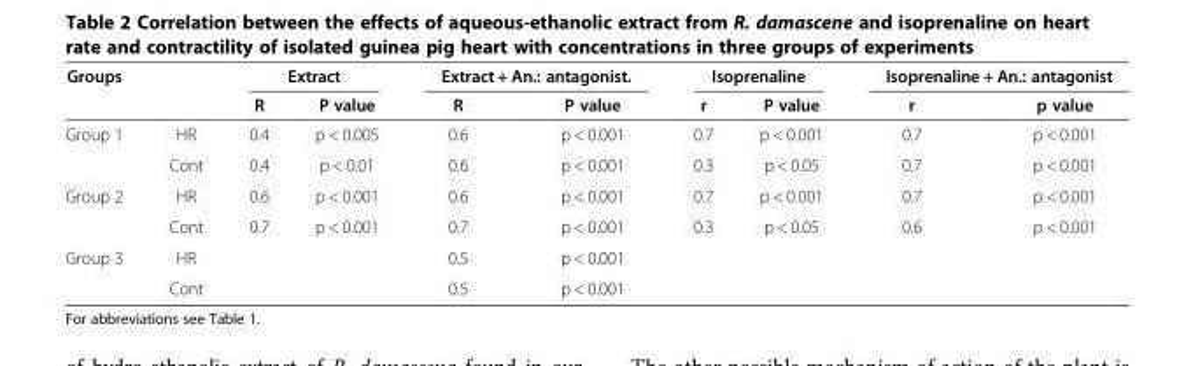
<table><thead><tr><td rowspan="2">Groups</td><td rowspan="2"></td><td colspan="2">Extract</td><td colspan="2">Extract + An.: antagonist.</td><td colspan="2">Isoprenaline</td><td colspan="2">Isoprenaline + An.: antagonist</td></tr><tr><td>R</td><td>P value</td><td>R</td><td>P value</td><td>r</td><td>P value</td><td>r</td><td>p value</td></tr></thead><tbody><tr><td rowspan="2">Group 1</td><td>HR</td><td>0.4</td><td>p &lt; 0.005</td><td>0.6</td><td>p &lt; 0.001</td><td>0.7</td><td>p &lt; 0.001</td><td>0.7</td><td>p &lt; 0.001</td></tr><tr><td>Cont</td><td>0.4</td><td>p &lt; 0.01</td><td>0.6</td><td>p &lt; 0.001</td><td>0.3</td><td>p &lt; 0.05</td><td>0.7</td><td>p &lt; 0.001</td></tr><tr><td rowspan="2">Group 2</td><td>HR</td><td>0.6</td><td>p &lt; 0.001</td><td>0.6</td><td>p &lt; 0.001</td><td>0.7</td><td>p &lt; 0.001</td><td>0.7</td><td>p &lt; 0.001</td></tr><tr><td>Cont</td><td>0.7</td><td>p &lt; 0.001</td><td>0.7</td><td>p &lt; 0.001</td><td>0.3</td><td>p &lt; 0.05</td><td>0.6</td><td>p &lt; 0.001</td></tr><tr><td rowspan="2">Group 3</td><td>HR</td><td></td><td></td><td>0.5</td><td>p &lt; 0.001</td><td></td><td></td><td></td><td></td></tr><tr><td>Cont</td><td></td><td></td><td>0.5</td><td>p &lt; 0.001</td><td></td><td></td><td></td><td></td></tr></tbody></table>